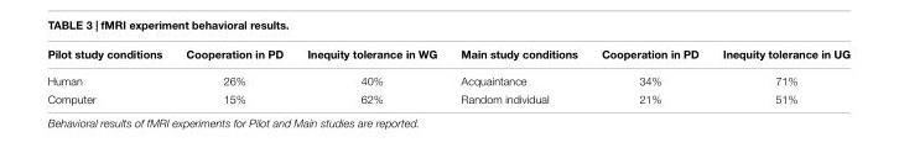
<table><thead><tr><td>Pilot study conditions</td><td>Cooperation in PD</td><td>Inequity tolerance in WG</td><td>Main study conditions</td><td>Cooperation in PD</td><td>Inequity tolerance in UG</td></tr></thead><tbody><tr><td>Human</td><td>26%</td><td>40%</td><td>Acquaintance</td><td>34%</td><td>71%</td></tr><tr><td>Computer</td><td>15%</td><td>62%</td><td>Random individual</td><td>21%</td><td>51%</td></tr></tbody></table>